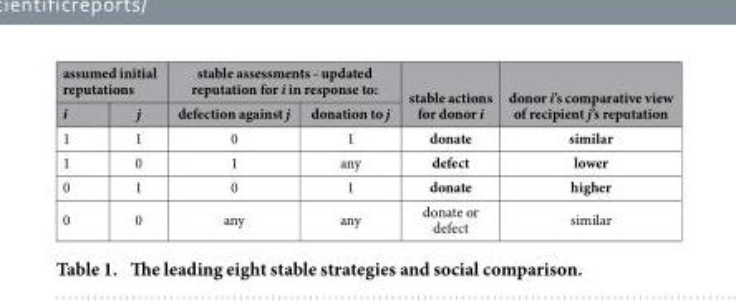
<table><thead><tr><td colspan="2">assumed initial reputations</td><td colspan="2">stable assessments - updated reputation for i in response to:</td><td rowspan="2">stable actions for donor i</td><td rowspan="2">donor i’s comparative view of recipient j’s reputation</td></tr><tr><td>i</td><td>j</td><td>defection against j</td><td>donation to j</td></tr></thead><tbody><tr><td>1</td><td>1</td><td>0</td><td>1</td><td>donate</td><td>similar</td></tr><tr><td>1</td><td>0</td><td>1</td><td>any</td><td>defect</td><td>lower</td></tr><tr><td>0</td><td>1</td><td>0</td><td>1</td><td>donate</td><td>higher</td></tr><tr><td>0</td><td>0</td><td>any</td><td>any</td><td>donate or defect</td><td>similar</td></tr></tbody></table>